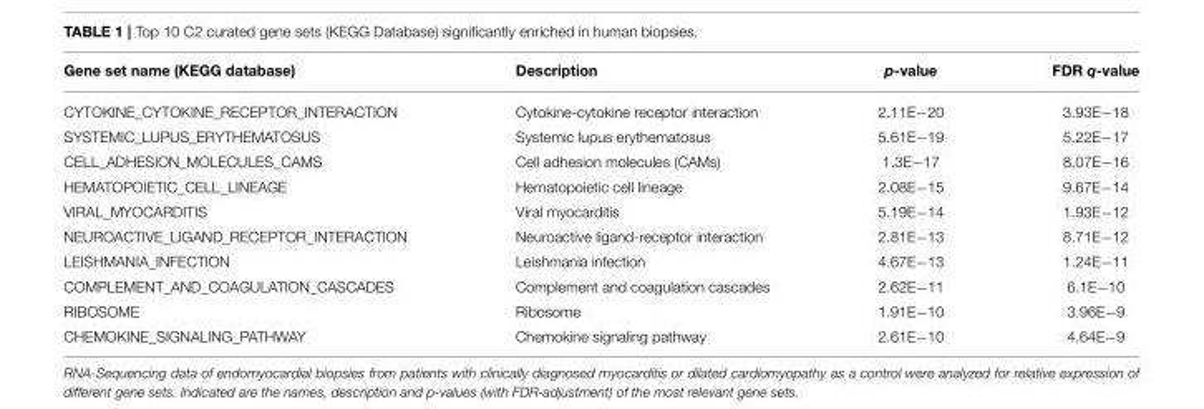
<table><thead><tr><td>Gene set name (KEGG database)</td><td>Description</td><td>p-value</td><td>FDR q-value</td></tr></thead><tbody><tr><td>CYTOKINE_CYTOKINE_RECEPTOR_INTERACTION</td><td>Cytokine-cytokine receptor interaction</td><td>2.11E−20</td><td>3.93E−18</td></tr><tr><td>SYSTEMIC_LUPUS_ERYTHEMATOSUS</td><td>Systemic lupus erythematosus</td><td>5.61E−19</td><td>5.22E−17</td></tr><tr><td>CELL_ADHESION_MOLECULES_CAMS</td><td>Cell adhesion molecules (CAMs)</td><td>1.3E−17</td><td>8.07E−16</td></tr><tr><td>HEMATOPOIETIC_CELL_LINEAGE</td><td>Hematopoietic cell lineage</td><td>2.08E−15</td><td>9.67E−14</td></tr><tr><td>VIRAL_MYOCARDITIS</td><td>Viral myocarditis</td><td>5.19E−14</td><td>1.93E−12</td></tr><tr><td>NEUROACTIVE_LIGAND_RECEPTOR_INTERACTION</td><td>Neuroactive ligand-receptor interaction</td><td>2.81E−13</td><td>8.71E−12</td></tr><tr><td>LEISHMANIA_INFECTION</td><td>Leishmania infection</td><td>4.67E−13</td><td>1.24E−11</td></tr><tr><td>COMPLEMENT_AND_COAGULATION_CASCADES</td><td>Complement and coagulation cascades</td><td>2.62E−11</td><td>6.1E−10</td></tr><tr><td>RIBOSOME</td><td>Ribosome</td><td>1.91E−10</td><td>3.96E−9</td></tr><tr><td>CHEMOKINE_SIGNALING_PATHWAY</td><td>Chemokine signaling pathway</td><td>2.61E−10</td><td>4.64E−9</td></tr></tbody></table>